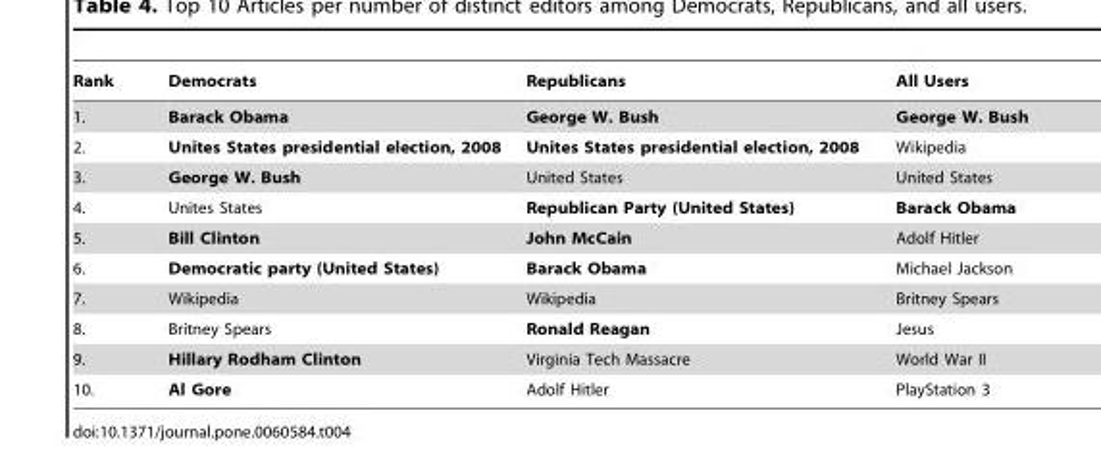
<table><thead><tr><td>Rank</td><td>Democrats</td><td>Republicans</td><td>All Users</td></tr></thead><tbody><tr><td>1.</td><td>Barack Obama</td><td>George W. Bush</td><td>George W. Bush</td></tr><tr><td>2.</td><td>Unites States presidential election, 2008</td><td>Unites States presidential election, 2008</td><td>Wikipedia</td></tr><tr><td>3.</td><td>George W. Bush</td><td>United States</td><td>United States</td></tr><tr><td>4.</td><td>Unites States</td><td>Republican Party (United States)</td><td>Barack Obama</td></tr><tr><td>5.</td><td>Bill Clinton</td><td>John McCain</td><td>Adolf Hitler</td></tr><tr><td>6.</td><td>Democratic party (United States)</td><td>Barack Obama</td><td>Michael Jackson</td></tr><tr><td>7.</td><td>Wikipedia</td><td>Wikipedia</td><td>Britney Spears</td></tr><tr><td>8.</td><td>Britney Spears</td><td>Ronald Reagan</td><td>Jesus</td></tr><tr><td>9.</td><td>Hillary Rodham Clinton</td><td>Virginia Tech Massacre</td><td>World War II</td></tr><tr><td>10.</td><td>Al Gore</td><td>Adolf Hitler</td><td>PlayStation 3</td></tr></tbody></table>